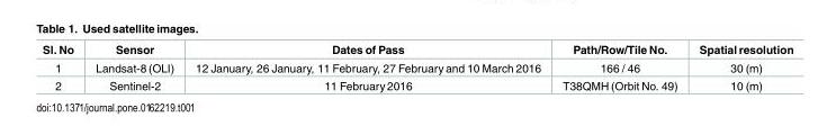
<table><thead><tr><td>Sl. No</td><td>Sensor</td><td>Dates of Pass</td><td>Path/Row/Tile No.</td><td>Spatial resolution</td></tr></thead><tbody><tr><td>1</td><td>Landsat-8 (OLI)</td><td>12 January, 26 January, 11 February, 27 February and 10 March 2016</td><td>166 / 46</td><td>30 (m)</td></tr><tr><td>2</td><td>Sentinel-2</td><td>11 February 2016</td><td>T38QMH (Orbit No. 49)</td><td>10 (m)</td></tr></tbody></table>